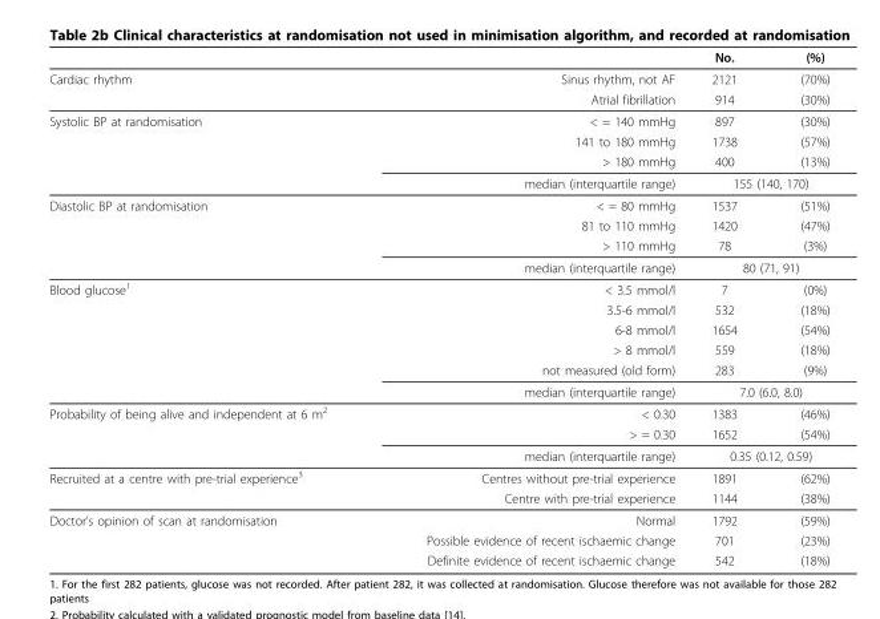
<table><thead><tr><td></td><td></td><td>No.</td><td>(%)</td></tr></thead><tbody><tr><td rowspan="2">Cardiac rhythm</td><td>Sinus rhythm, not AF</td><td>2121</td><td>(70%)</td></tr><tr><td>Atrial fibrillation</td><td>914</td><td>(30%)</td></tr><tr><td rowspan="4">Systolic BP at randomisation</td><td>&lt; = 140 mmHg</td><td>897</td><td>(30%)</td></tr><tr><td>141 to 180 mmHg</td><td>1738</td><td>(57%)</td></tr><tr><td>&gt; 180 mmHg</td><td>400</td><td>(13%)</td></tr><tr><td>median (interquartile range)</td><td colspan="2">155 (140, 170)</td></tr><tr><td rowspan="4">Diastolic BP at randomisation</td><td>&lt; = 80 mmHg</td><td>1537</td><td>(51%)</td></tr><tr><td>81 to 110 mmHg</td><td>1420</td><td>(47%)</td></tr><tr><td>&gt; 110 mmHg</td><td>78</td><td>(3%)</td></tr><tr><td>median (interquartile range)</td><td colspan="2">80 (71, 91)</td></tr><tr><td rowspan="6">Blood glucose<sup>1</sup></td><td>&lt; 3.5 mmol/l</td><td>7</td><td>(0%)</td></tr><tr><td>3.5-6 mmol/l</td><td>532</td><td>(18%)</td></tr><tr><td>6-8 mmol/l</td><td>1654</td><td>(54%)</td></tr><tr><td>&gt; 8 mmol/l</td><td>559</td><td>(18%)</td></tr><tr><td>not measured (old form)</td><td>283</td><td>(9%)</td></tr><tr><td>median (interquartile range)</td><td colspan="2">7.0 (6.0, 8.0)</td></tr><tr><td rowspan="3">Probability of being alive and independent at 6 m<sup>2</sup></td><td>&lt; 0.30</td><td>1383</td><td>(46%)</td></tr><tr><td>&gt; = 0.30</td><td>1652</td><td>(54%)</td></tr><tr><td>median (interquartile range)</td><td colspan="2">0.35 (0.12, 0.59)</td></tr><tr><td rowspan="2">Recruited at a centre with pre-trial experience<sup>3</sup></td><td>Centres without pre-trial experience</td><td>1891</td><td>(62%)</td></tr><tr><td>Centre with pre-trial experience</td><td>1144</td><td>(38%)</td></tr><tr><td rowspan="3">Doctor’s opinion of scan at randomisation</td><td>Normal</td><td>1792</td><td>(59%)</td></tr><tr><td>Possible evidence of recent ischaemic change</td><td>701</td><td>(23%)</td></tr><tr><td>Definite evidence of recent ischaemic change</td><td>542</td><td>(18%)</td></tr></tbody></table>